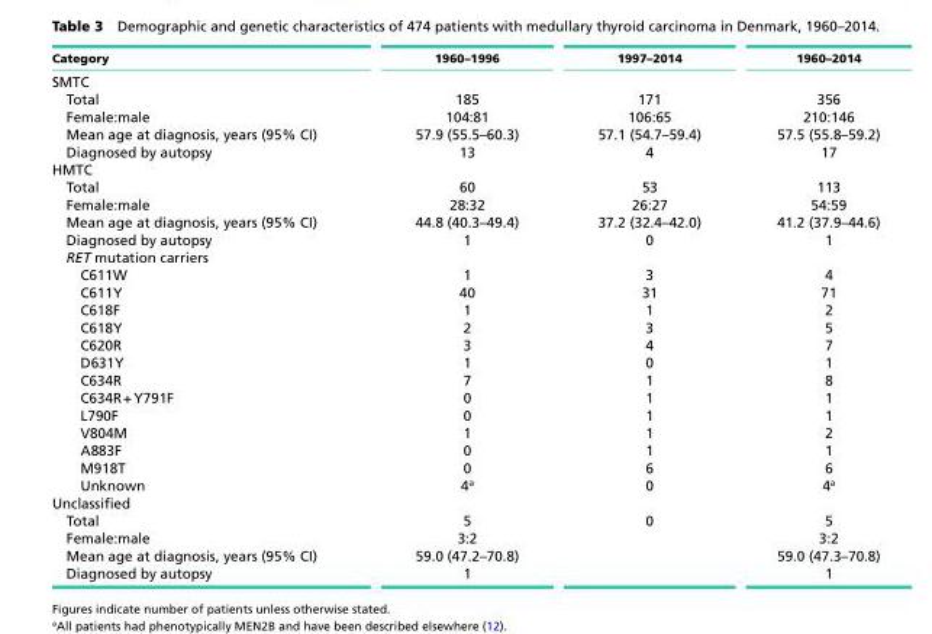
<table><thead><tr><td>Category</td><td>1960–1996</td><td>1997–2014</td><td>1960–2014</td></tr></thead><tbody><tr><td colspan="4">SMTC</td></tr><tr><td>Total</td><td>185</td><td>171</td><td>356</td></tr><tr><td>Female:male</td><td>104:81</td><td>106:65</td><td>210:146</td></tr><tr><td>Mean age at diagnosis, years (95% CI)</td><td>57.9 (55.5–60.3)</td><td>57.1 (54.7–59.4)</td><td>57.5 (55.8–59.2)</td></tr><tr><td>Diagnosed by autopsy</td><td>13</td><td>4</td><td>17</td></tr><tr><td colspan="4">HMTC</td></tr><tr><td>Total</td><td>60</td><td>53</td><td>113</td></tr><tr><td>Female:male</td><td>28:32</td><td>26:27</td><td>54:59</td></tr><tr><td>Mean age at diagnosis, years (95% CI)</td><td>44.8 (40.3–49.4)</td><td>37.2 (32.4–42.0)</td><td>41.2 (37.9–44.6)</td></tr><tr><td>Diagnosed by autopsy</td><td>1</td><td>0</td><td>1</td></tr><tr><td colspan="4">RET mutation carriers</td></tr><tr><td>C611W</td><td>1</td><td>3</td><td>4</td></tr><tr><td>C611Y</td><td>40</td><td>31</td><td>71</td></tr><tr><td>C618F</td><td>1</td><td>1</td><td>2</td></tr><tr><td>C618Y</td><td>2</td><td>3</td><td>5</td></tr><tr><td>C620R</td><td>3</td><td>4</td><td>7</td></tr><tr><td>D631Y</td><td>1</td><td>0</td><td>1</td></tr><tr><td>C634R</td><td>7</td><td>1</td><td>8</td></tr><tr><td>C634R + Y791F</td><td>0</td><td>1</td><td>1</td></tr><tr><td>L790F</td><td>0</td><td>1</td><td>1</td></tr><tr><td>V804M</td><td>1</td><td>1</td><td>2</td></tr><tr><td>A883F</td><td>0</td><td>1</td><td>1</td></tr><tr><td>M918T</td><td>0</td><td>6</td><td>6</td></tr><tr><td>Unknown</td><td>4<sup>a</sup></td><td>0</td><td>4<sup>a</sup></td></tr><tr><td colspan="4">Unclassified</td></tr><tr><td>Total</td><td>5</td><td>0</td><td>5</td></tr><tr><td>Female:male</td><td>3:2</td><td></td><td>3:2</td></tr><tr><td>Mean age at diagnosis, years (95% CI)</td><td>59.0 (47.2–70.8)</td><td></td><td>59.0 (47.3–70.8)</td></tr><tr><td>Diagnosed by autopsy</td><td>1</td><td></td><td>1</td></tr></tbody></table>